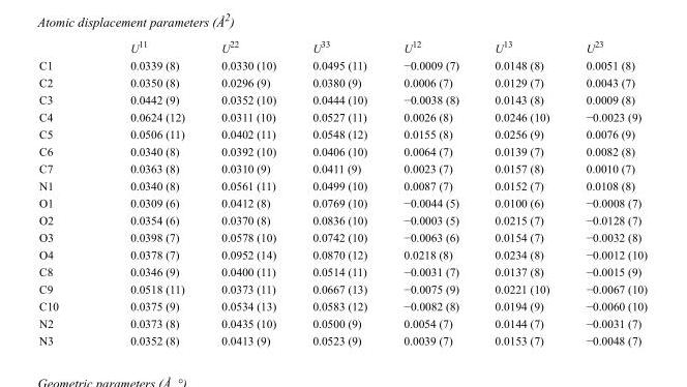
<table><thead><tr><td></td><td>U<sup>11</sup></td><td>U<sup>22</sup></td><td>U<sup>33</sup></td><td>U<sup>12</sup></td><td>U<sup>13</sup></td><td>U<sup>23</sup></td></tr></thead><tbody><tr><td>C1</td><td>0.0339 (8)</td><td>0.0330 (10)</td><td>0.0495 (11)</td><td>−0.0009 (7)</td><td>0.0148 (8)</td><td>0.0051 (8)</td></tr><tr><td>C2</td><td>0.0350 (8)</td><td>0.0296 (9)</td><td>0.0380 (9)</td><td>0.0006 (7)</td><td>0.0129 (7)</td><td>0.0043 (7)</td></tr><tr><td>C3</td><td>0.0442 (9)</td><td>0.0352 (10)</td><td>0.0444 (10)</td><td>−0.0038 (8)</td><td>0.0143 (8)</td><td>0.0009 (8)</td></tr><tr><td>C4</td><td>0.0624 (12)</td><td>0.0311 (10)</td><td>0.0527 (11)</td><td>0.0026 (8)</td><td>0.0246 (10)</td><td>−0.0023 (9)</td></tr><tr><td>C5</td><td>0.0506 (11)</td><td>0.0402 (11)</td><td>0.0548 (12)</td><td>0.0155 (8)</td><td>0.0256 (9)</td><td>0.0076 (9)</td></tr><tr><td>C6</td><td>0.0340 (8)</td><td>0.0392 (10)</td><td>0.0406 (10)</td><td>0.0064 (7)</td><td>0.0139 (7)</td><td>0.0082 (8)</td></tr><tr><td>C7</td><td>0.0363 (8)</td><td>0.0310 (9)</td><td>0.0411 (9)</td><td>0.0023 (7)</td><td>0.0157 (8)</td><td>0.0010 (7)</td></tr><tr><td>N1</td><td>0.0340 (8)</td><td>0.0561 (11)</td><td>0.0499 (10)</td><td>0.0087 (7)</td><td>0.0152 (7)</td><td>0.0108 (8)</td></tr><tr><td>O1</td><td>0.0309 (6)</td><td>0.0412 (8)</td><td>0.0769 (10)</td><td>−0.0044 (5)</td><td>0.0100 (6)</td><td>−0.0008 (7)</td></tr><tr><td>O2</td><td>0.0354 (6)</td><td>0.0370 (8)</td><td>0.0836 (10)</td><td>−0.0003 (5)</td><td>0.0215 (7)</td><td>−0.0128 (7)</td></tr><tr><td>O3</td><td>0.0398 (7)</td><td>0.0578 (10)</td><td>0.0742 (10)</td><td>−0.0063 (6)</td><td>0.0154 (7)</td><td>−0.0032 (8)</td></tr><tr><td>O4</td><td>0.0378 (7)</td><td>0.0952 (14)</td><td>0.0870 (12)</td><td>0.0218 (8)</td><td>0.0234 (8)</td><td>−0.0012 (10)</td></tr><tr><td>C8</td><td>0.0346 (9)</td><td>0.0400 (11)</td><td>0.0514 (11)</td><td>−0.0031 (7)</td><td>0.0137 (8)</td><td>−0.0015 (9)</td></tr><tr><td>C9</td><td>0.0518 (11)</td><td>0.0373 (11)</td><td>0.0667 (13)</td><td>−0.0075 (9)</td><td>0.0221 (10)</td><td>−0.0067 (10)</td></tr><tr><td>C10</td><td>0.0375 (9)</td><td>0.0534 (13)</td><td>0.0583 (12)</td><td>−0.0082 (8)</td><td>0.0194 (9)</td><td>−0.0060 (10)</td></tr><tr><td>N2</td><td>0.0373 (8)</td><td>0.0435 (10)</td><td>0.0500 (9)</td><td>0.0054 (7)</td><td>0.0144 (7)</td><td>−0.0031 (7)</td></tr><tr><td>N3</td><td>0.0352 (8)</td><td>0.0413 (9)</td><td>0.0523 (9)</td><td>0.0039 (7)</td><td>0.0153 (7)</td><td>−0.0048 (7)</td></tr></tbody></table>